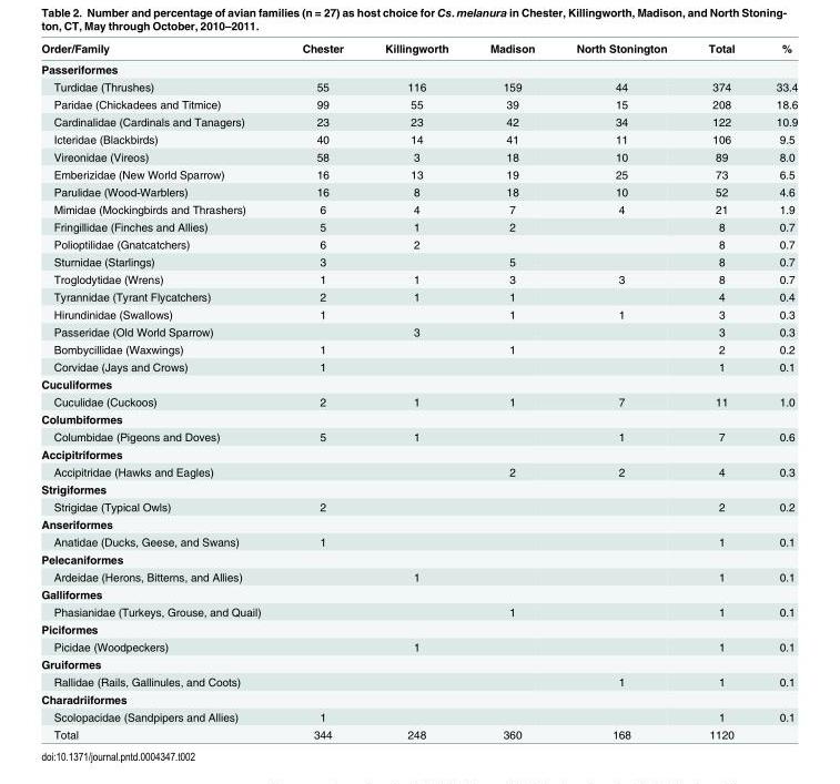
<table><thead><tr><td>Order/Family</td><td>Chester</td><td>Killingworth</td><td>Madison</td><td>North Stonington</td><td>Total</td><td>%</td></tr></thead><tbody><tr><td colspan="7">Passeriformes</td></tr><tr><td>Turdidae (Thrushes)</td><td>55</td><td>116</td><td>159</td><td>44</td><td>374</td><td>33.4</td></tr><tr><td>Paridae (Chickadees and Titmice)</td><td>99</td><td>55</td><td>39</td><td>15</td><td>208</td><td>18.6</td></tr><tr><td>Cardinalidae (Cardinals and Tanagers)</td><td>23</td><td>23</td><td>42</td><td>34</td><td>122</td><td>10.9</td></tr><tr><td>Icteridae (Blackbirds)</td><td>40</td><td>14</td><td>41</td><td>11</td><td>106</td><td>9.5</td></tr><tr><td>Vireonidae (Vireos)</td><td>58</td><td>3</td><td>18</td><td>10</td><td>89</td><td>8.0</td></tr><tr><td>Emberizidae (New World Sparrow)</td><td>16</td><td>13</td><td>19</td><td>25</td><td>73</td><td>6.5</td></tr><tr><td>Parulidae (Wood-Warblers)</td><td>16</td><td>8</td><td>18</td><td>10</td><td>52</td><td>4.6</td></tr><tr><td>Mimidae (Mockingbirds and Thrashers)</td><td>6</td><td>4</td><td>7</td><td>4</td><td>21</td><td>1.9</td></tr><tr><td>Fringillidae (Finches and Allies)</td><td>5</td><td>1</td><td>2</td><td></td><td>8</td><td>0.7</td></tr><tr><td>Polioptilidae (Gnatcatchers)</td><td>6</td><td>2</td><td></td><td></td><td>8</td><td>0.7</td></tr><tr><td>Sturnidae (Starlings)</td><td>3</td><td></td><td>5</td><td></td><td>8</td><td>0.7</td></tr><tr><td>Troglodytidae (Wrens)</td><td>1</td><td>1</td><td>3</td><td>3</td><td>8</td><td>0.7</td></tr><tr><td>Tyrannidae (Tyrant Flycatchers)</td><td>2</td><td>1</td><td>1</td><td></td><td>4</td><td>0.4</td></tr><tr><td>Hirundinidae (Swallows)</td><td>1</td><td></td><td>1</td><td>1</td><td>3</td><td>0.3</td></tr><tr><td>Passeridae (Old World Sparrow)</td><td></td><td>3</td><td></td><td></td><td>3</td><td>0.3</td></tr><tr><td>Bombycillidae (Waxwings)</td><td>1</td><td></td><td>1</td><td></td><td>2</td><td>0.2</td></tr><tr><td>Corvidae (Jays and Crows)</td><td>1</td><td></td><td></td><td></td><td>1</td><td>0.1</td></tr><tr><td colspan="7">Cuculiformes</td></tr><tr><td>Cuculidae (Cuckoos)</td><td>2</td><td>1</td><td>1</td><td>7</td><td>11</td><td>1.0</td></tr><tr><td colspan="7">Columbiformes</td></tr><tr><td>Columbidae (Pigeons and Doves)</td><td>5</td><td>1</td><td></td><td>1</td><td>7</td><td>0.6</td></tr><tr><td colspan="7">Accipitriformes</td></tr><tr><td>Accipitridae (Hawks and Eagles)</td><td></td><td></td><td>2</td><td>2</td><td>4</td><td>0.3</td></tr><tr><td colspan="7">Strigiformes</td></tr><tr><td>Strigidae (Typical Owls)</td><td>2</td><td></td><td></td><td></td><td>2</td><td>0.2</td></tr><tr><td colspan="7">Anseriformes</td></tr><tr><td>Anatidae (Ducks, Geese, and Swans)</td><td>1</td><td></td><td></td><td></td><td>1</td><td>0.1</td></tr><tr><td colspan="7">Pelecaniformes</td></tr><tr><td>Ardeidae (Herons, Bitterns, and Allies)</td><td></td><td>1</td><td></td><td></td><td>1</td><td>0.1</td></tr><tr><td colspan="7">Galliformes</td></tr><tr><td>Phasianidae (Turkeys, Grouse, and Quail)</td><td></td><td></td><td>1</td><td></td><td>1</td><td>0.1</td></tr><tr><td colspan="7">Piciformes</td></tr><tr><td>Picidae (Woodpeckers)</td><td></td><td>1</td><td></td><td></td><td>1</td><td>0.1</td></tr><tr><td colspan="7">Gruiformes</td></tr><tr><td>Rallidae (Rails, Gallinules, and Coots)</td><td></td><td></td><td></td><td>1</td><td>1</td><td>0.1</td></tr><tr><td colspan="7">Charadriiformes</td></tr><tr><td>Scolopacidae (Sandpipers and Allies)</td><td>1</td><td></td><td></td><td></td><td>1</td><td>0.1</td></tr><tr><td>Total</td><td>344</td><td>248</td><td>360</td><td>168</td><td>1120</td><td></td></tr></tbody></table>